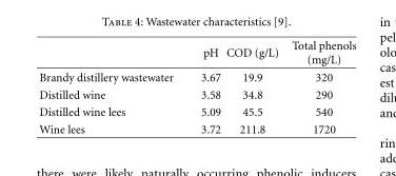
<table><thead><tr><td></td><td>pH</td><td>COD (g/L)</td><td>Total phenols (mg/L)</td></tr></thead><tbody><tr><td>Brandy distillery wastewater</td><td>3.67</td><td>19.9</td><td>320</td></tr><tr><td>Distilled wine</td><td>3.58</td><td>34.8</td><td>290</td></tr><tr><td>Distilled wine lees</td><td>5.09</td><td>45.5</td><td>540</td></tr><tr><td>Wine lees</td><td>3.72</td><td>211.8</td><td>1720</td></tr></tbody></table>